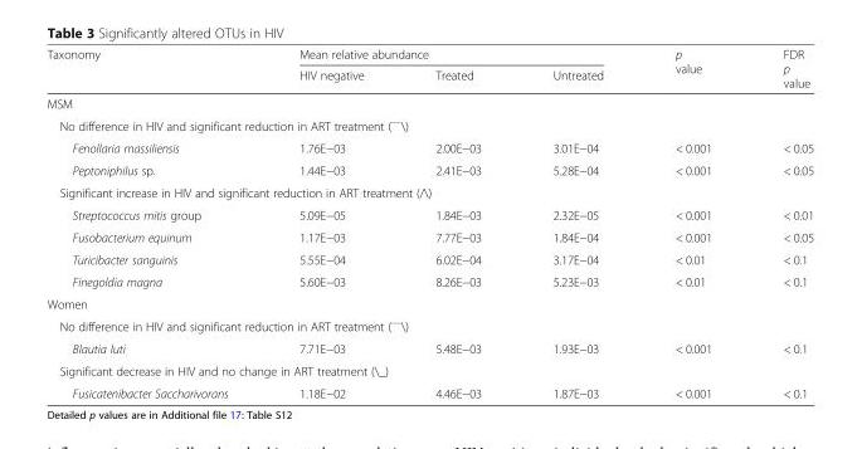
<table><thead><tr><td rowspan="2">Taxonomy</td><td colspan="3">Mean relative abundance</td><td rowspan="2">p value</td><td rowspan="2">FDR p value</td></tr><tr><td>HIV negative</td><td>Treated</td><td>Untreated</td></tr></thead><tbody><tr><td colspan="6">MSM</td></tr><tr><td colspan="6">No difference in HIV and significant reduction in ART treatment (<sup>—</sup>\)</td></tr><tr><td>Fenollaria massiliensis</td><td>1.76E−03</td><td>2.00E−03</td><td>3.01E−04</td><td>&lt; 0.001</td><td>&lt; 0.05</td></tr><tr><td>Peptoniphilus sp.</td><td>1.44E−03</td><td>2.41E−03</td><td>5.28E−04</td><td>&lt; 0.001</td><td>&lt; 0.05</td></tr><tr><td colspan="6">Significant increase in HIV and significant reduction in ART treatment (/\)</td></tr><tr><td>Streptococcus mitis group</td><td>5.09E−05</td><td>1.84E−03</td><td>2.32E−05</td><td>&lt; 0.001</td><td>&lt; 0.01</td></tr><tr><td>Fusobacterium equinum</td><td>1.17E−03</td><td>7.77E−03</td><td>1.84E−04</td><td>&lt; 0.001</td><td>&lt; 0.05</td></tr><tr><td>Turicibacter sanguinis</td><td>5.55E−04</td><td>6.02E−04</td><td>3.17E−04</td><td>&lt; 0.01</td><td>&lt; 0.1</td></tr><tr><td>Finegoldia magna</td><td>5.60E−03</td><td>8.26E−03</td><td>5.23E−03</td><td>&lt; 0.01</td><td>&lt; 0.1</td></tr><tr><td colspan="6">Women</td></tr><tr><td colspan="6">No difference in HIV and significant reduction in ART treatment (<sup>—</sup>\)</td></tr><tr><td>Blautia luti</td><td>7.71E−03</td><td>5.48E−03</td><td>1.93E−03</td><td>&lt; 0.001</td><td>&lt; 0.1</td></tr><tr><td colspan="6">Significant decrease in HIV and no change in ART treatment (\_)</td></tr><tr><td>Fusicatenibacter Saccharivorans</td><td>1.18E−02</td><td>4.46E−03</td><td>1.87E−03</td><td>&lt; 0.001</td><td>&lt; 0.1</td></tr></tbody></table>